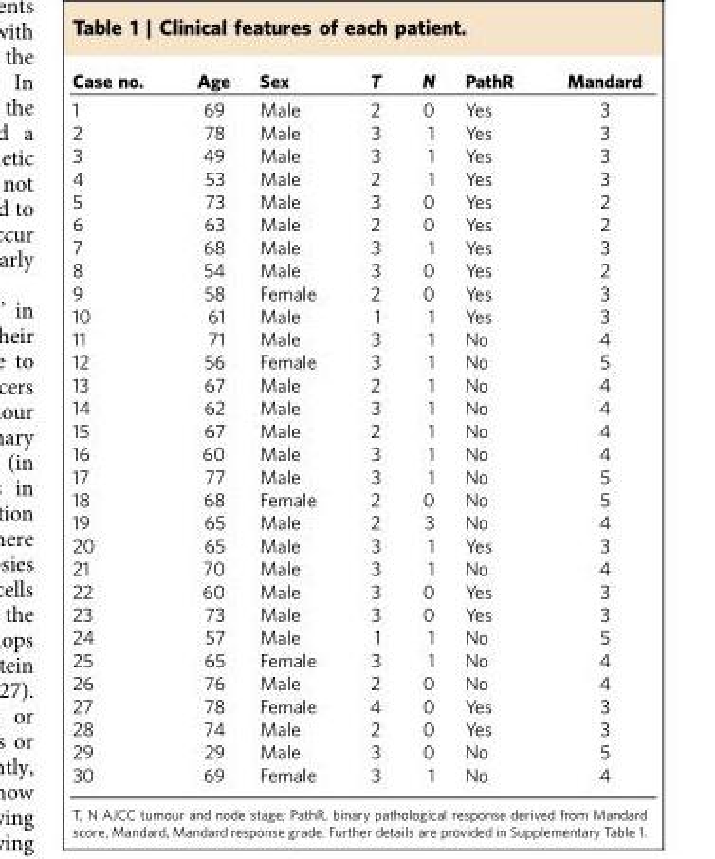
<table><thead><tr><td>Case no.</td><td>Age</td><td>Sex</td><td>T</td><td>N</td><td>PathR</td><td>Mandard</td></tr></thead><tbody><tr><td>1</td><td>69</td><td>Male</td><td>2</td><td>0</td><td>Yes</td><td>3</td></tr><tr><td>2</td><td>78</td><td>Male</td><td>3</td><td>1</td><td>Yes</td><td>3</td></tr><tr><td>3</td><td>49</td><td>Male</td><td>3</td><td>1</td><td>Yes</td><td>3</td></tr><tr><td>4</td><td>53</td><td>Male</td><td>2</td><td>1</td><td>Yes</td><td>3</td></tr><tr><td>5</td><td>73</td><td>Male</td><td>3</td><td>0</td><td>Yes</td><td>2</td></tr><tr><td>6</td><td>63</td><td>Male</td><td>2</td><td>0</td><td>Yes</td><td>2</td></tr><tr><td>7</td><td>68</td><td>Male</td><td>3</td><td>1</td><td>Yes</td><td>3</td></tr><tr><td>8</td><td>54</td><td>Male</td><td>3</td><td>0</td><td>Yes</td><td>2</td></tr><tr><td>9</td><td>58</td><td>Female</td><td>2</td><td>0</td><td>Yes</td><td>3</td></tr><tr><td>10</td><td>61</td><td>Male</td><td>1</td><td>1</td><td>Yes</td><td>3</td></tr><tr><td>11</td><td>71</td><td>Male</td><td>3</td><td>1</td><td>No</td><td>4</td></tr><tr><td>12</td><td>56</td><td>Female</td><td>3</td><td>1</td><td>No</td><td>5</td></tr><tr><td>13</td><td>67</td><td>Male</td><td>2</td><td>1</td><td>No</td><td>4</td></tr><tr><td>14</td><td>62</td><td>Male</td><td>3</td><td>1</td><td>No</td><td>4</td></tr><tr><td>15</td><td>67</td><td>Male</td><td>2</td><td>1</td><td>No</td><td>4</td></tr><tr><td>16</td><td>60</td><td>Male</td><td>3</td><td>1</td><td>No</td><td>4</td></tr><tr><td>17</td><td>77</td><td>Male</td><td>3</td><td>1</td><td>No</td><td>5</td></tr><tr><td>18</td><td>68</td><td>Female</td><td>2</td><td>0</td><td>No</td><td>5</td></tr><tr><td>19</td><td>65</td><td>Male</td><td>2</td><td>3</td><td>No</td><td>4</td></tr><tr><td>20</td><td>65</td><td>Male</td><td>3</td><td>1</td><td>Yes</td><td>3</td></tr><tr><td>21</td><td>70</td><td>Male</td><td>3</td><td>1</td><td>No</td><td>4</td></tr><tr><td>22</td><td>60</td><td>Male</td><td>3</td><td>0</td><td>Yes</td><td>3</td></tr><tr><td>23</td><td>73</td><td>Male</td><td>3</td><td>0</td><td>Yes</td><td>3</td></tr><tr><td>24</td><td>57</td><td>Male</td><td>1</td><td>1</td><td>No</td><td>5</td></tr><tr><td>25</td><td>65</td><td>Female</td><td>3</td><td>1</td><td>No</td><td>4</td></tr><tr><td>26</td><td>76</td><td>Male</td><td>2</td><td>0</td><td>No</td><td>4</td></tr><tr><td>27</td><td>78</td><td>Female</td><td>4</td><td>0</td><td>Yes</td><td>3</td></tr><tr><td>28</td><td>74</td><td>Male</td><td>2</td><td>0</td><td>Yes</td><td>3</td></tr><tr><td>29</td><td>29</td><td>Male</td><td>3</td><td>0</td><td>No</td><td>5</td></tr><tr><td>30</td><td>69</td><td>Female</td><td>3</td><td>1</td><td>No</td><td>4</td></tr></tbody></table>